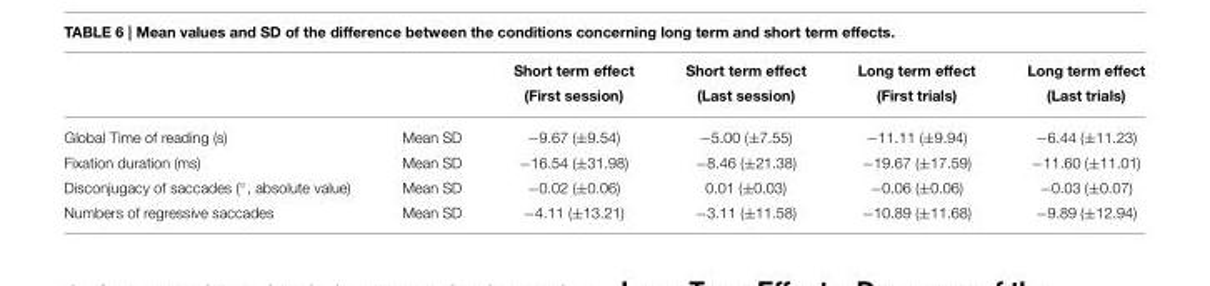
<table><thead><tr><td></td><td></td><td>Short term effect (First session)</td><td>Short term effect (Last session)</td><td>Long term effect (First trials)</td><td>Long term effect (Last trials)</td></tr></thead><tbody><tr><td>Global Time of reading (s)</td><td>Mean SD</td><td>−9.67 (±9.54)</td><td>−5.00 (±7.55)</td><td>−11.11 (±9.94)</td><td>−6.44 (±11.23)</td></tr><tr><td>Fixation duration (ms)</td><td>Mean SD</td><td>−16.54 (±31.98)</td><td>−8.46 (±21.38)</td><td>−19.67 (±17.59)</td><td>−11.60 (±11.01)</td></tr><tr><td>Disconjugacy of saccades (◦, absolute value)</td><td>Mean SD</td><td>−0.02 (±0.06)</td><td>0.01 (±0.03)</td><td>−0.06 (±0.06)</td><td>−0.03 (±0.07)</td></tr><tr><td>Numbers of regressive saccades</td><td>Mean SD</td><td>−4.11 (±13.21)</td><td>−3.11 (±11.58)</td><td>−10.89 (±11.68)</td><td>−9.89 (±12.94)</td></tr></tbody></table>